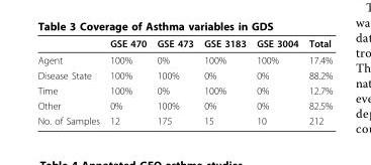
<table><thead><tr><td></td><td>GSE 470</td><td>GSE 473</td><td>GSE 3183</td><td>GSE 3004</td><td>Total</td></tr></thead><tbody><tr><td>Agent</td><td>100%</td><td>0%</td><td>100%</td><td>100%</td><td>17.4%</td></tr><tr><td>Disease State</td><td>100%</td><td>100%</td><td>0%</td><td>0%</td><td>88.2%</td></tr><tr><td>Time</td><td>100%</td><td>0%</td><td>100%</td><td>0%</td><td>12.7%</td></tr><tr><td>Other</td><td>0%</td><td>100%</td><td>0%</td><td>0%</td><td>82.5%</td></tr><tr><td>No. of Samples</td><td>12</td><td>175</td><td>15</td><td>10</td><td>212</td></tr></tbody></table>